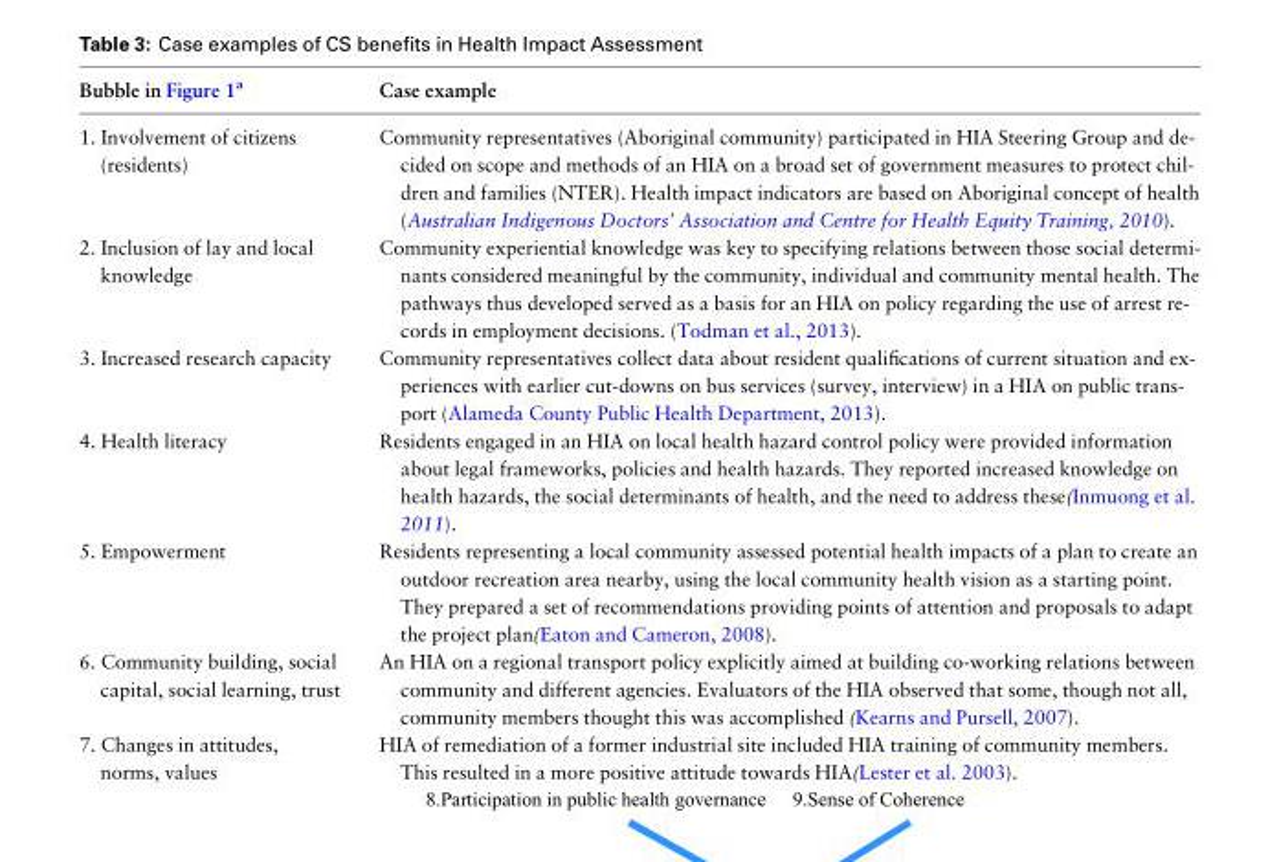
<table><thead><tr><td>Bubble in Figure 1<sup>a</sup></td><td>Case example</td></tr></thead><tbody><tr><td>1. Involvement of citizens (residents)</td><td>Community representatives (Aboriginal community) participated in HIA Steering Group and de- cided on scope and methods of an HIA on a broad set of government measures to protect chil- dren and families (NTER). Health impact indicators are based on Aboriginal concept of health (Australian Indigenous Doctors’ Association and Centre for Health Equity Training, 2010).</td></tr><tr><td>2. Inclusion of lay and local knowledge</td><td>Community experiential knowledge was key to specifying relations between those social determi- nants considered meaningful by the community, individual and community mental health. The pathways thus developed served as a basis for an HIA on policy regarding the use of arrest re- cords in employment decisions. (Todman et al., 2013).</td></tr><tr><td>3. Increased research capacity</td><td>Community representatives collect data about resident qualifications of current situation and ex- periences with earlier cut-downs on bus services (survey, interview) in a HIA on public trans- port (Alameda County Public Health Department, 2013).</td></tr><tr><td>4. Health literacy</td><td>Residents engaged in an HIA on local health hazard control policy were provided information about legal frameworks, policies and health hazards. They reported increased knowledge on health hazards, the social determinants of health, and the need to address these(Inmuong et al. 2011).</td></tr><tr><td>5. Empowerment</td><td>Residents representing a local community assessed potential health impacts of a plan to create an outdoor recreation area nearby, using the local community health vision as a starting point. They prepared a set of recommendations providing points of attention and proposals to adapt the project plan(Eaton and Cameron, 2008).</td></tr><tr><td>6. Community building, social capital, social learning, trust</td><td>An HIA on a regional transport policy explicitly aimed at building co-working relations between community and different agencies. Evaluators of the HIA observed that some, though not all, community members thought this was accomplished (Kearns and Pursell, 2007).</td></tr><tr><td>7. Changes in attitudes, norms, values</td><td>HIA of remediation of a former industrial site included HIA training of community members. This resulted in a more positive attitude towards HIA(Lester et al. 2003).</td></tr></tbody></table>